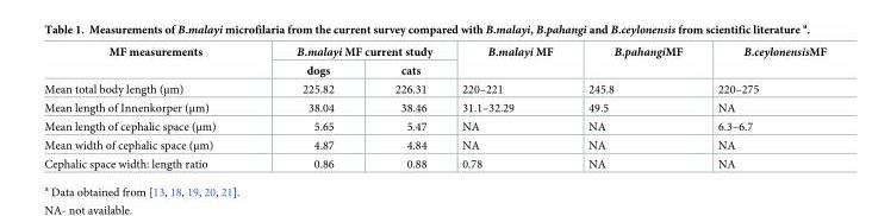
<table><thead><tr><td rowspan="2">MF measurements</td><td colspan="2">B.malayi MF current study</td><td rowspan="2">B.malayi MF</td><td rowspan="2">B.pahangiMF</td><td rowspan="2">B.ceylonensisMF</td></tr><tr><td>dogs</td><td>cats</td></tr></thead><tbody><tr><td>Mean total body length (μm)</td><td>225.82</td><td>226.31</td><td>220–221</td><td>245.8</td><td>220–275</td></tr><tr><td>Mean length of Innenkorper (μm)</td><td>38.04</td><td>38.46</td><td>31.1–32.29</td><td>49.5</td><td>NA</td></tr><tr><td>Mean length of cephalic space (μm)</td><td>5.65</td><td>5.47</td><td>NA</td><td>NA</td><td>6.3–6.7</td></tr><tr><td>Mean width of cephalic space (μm)</td><td>4.87</td><td>4.84</td><td>NA</td><td>NA</td><td>NA</td></tr><tr><td>Cephalic space width: length ratio</td><td>0.86</td><td>0.88</td><td>0.78</td><td>NA</td><td>NA</td></tr></tbody></table>